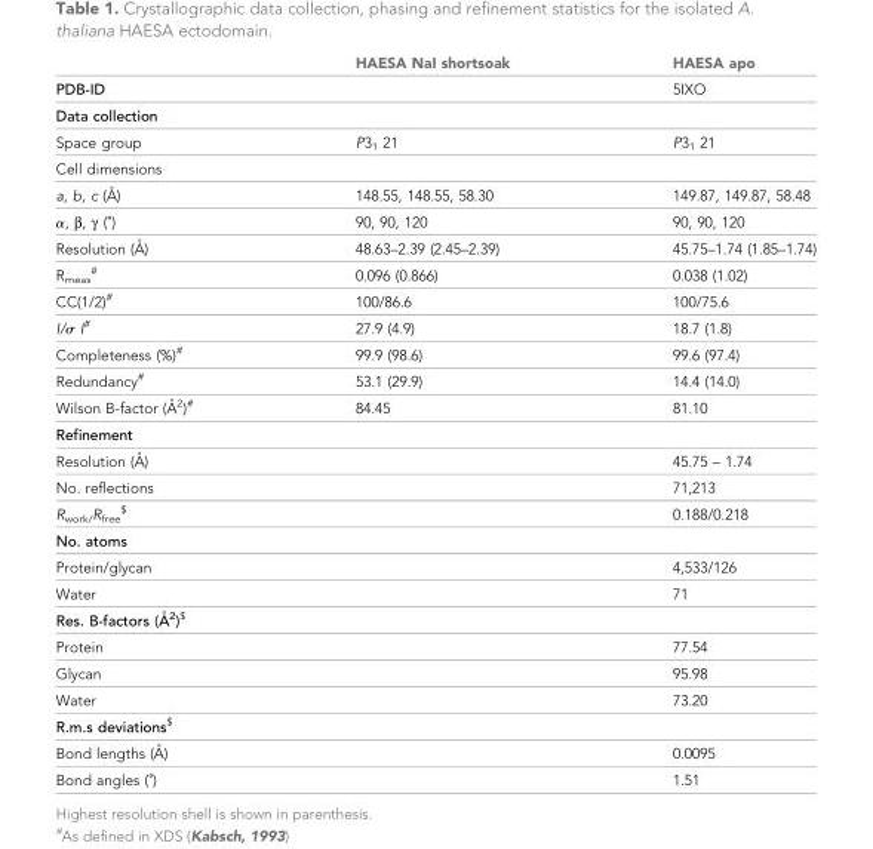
<table><thead><tr><td></td><td>HAESA NaI shortsoak</td><td>HAESA apo</td></tr></thead><tbody><tr><td>PDB-ID</td><td></td><td>5IXO</td></tr><tr><td colspan="3">Data collection</td></tr><tr><td>Space group</td><td>P3<sub>1</sub> 21</td><td>P3<sub>1</sub> 21</td></tr><tr><td colspan="3">Cell dimensions</td></tr><tr><td>a, b, c (A˚ )</td><td>148.55, 148.55, 58.30</td><td>149.87, 149.87, 58.48</td></tr><tr><td>α, β, γ (˚)</td><td>90, 90, 120</td><td>90, 90, 120</td></tr><tr><td>Resolution (A˚ )</td><td>48.63–2.39 (2.45–2.39)</td><td>45.75–1.74 (1.85–1.74)</td></tr><tr><td>R<sub>meas</sub> <sup>#</sup></td><td>0.096 (0.866)</td><td>0.038 (1.02)</td></tr><tr><td>CC(1/2)<sup>#</sup></td><td>100/86.6</td><td>100/75.6</td></tr><tr><td>I/σ I<sup>#</sup></td><td>27.9 (4.9)</td><td>18.7 (1.8)</td></tr><tr><td>Completeness (%)<sup>#</sup></td><td>99.9 (98.6)</td><td>99.6 (97.4)</td></tr><tr><td>Redundancy<sup>#</sup></td><td>53.1 (29.9)</td><td>14.4 (14.0)</td></tr><tr><td>Wilson B-factor (A˚ 2)#</td><td>84.45</td><td>81.10</td></tr><tr><td colspan="3">Refinement</td></tr><tr><td>Resolution (A˚ )</td><td></td><td>45.75 – 1.74</td></tr><tr><td>No. reflections</td><td></td><td>71,213</td></tr><tr><td>R<sub>work/</sub>R<sub>free</sub> <sup>$</sup></td><td></td><td>0.188/0.218</td></tr><tr><td colspan="3">No. atoms</td></tr><tr><td>Protein/glycan</td><td></td><td>4,533/126</td></tr><tr><td>Water</td><td></td><td>71</td></tr><tr><td colspan="3">Res. B-factors (A˚ 2)$</td></tr><tr><td>Protein</td><td></td><td>77.54</td></tr><tr><td>Glycan</td><td></td><td>95.98</td></tr><tr><td>Water</td><td></td><td>73.20</td></tr><tr><td colspan="3">R.m.s deviations<sup>$</sup></td></tr><tr><td>Bond lengths (A˚ )</td><td></td><td>0.0095</td></tr><tr><td>Bond angles (˚)</td><td></td><td>1.51</td></tr></tbody></table>